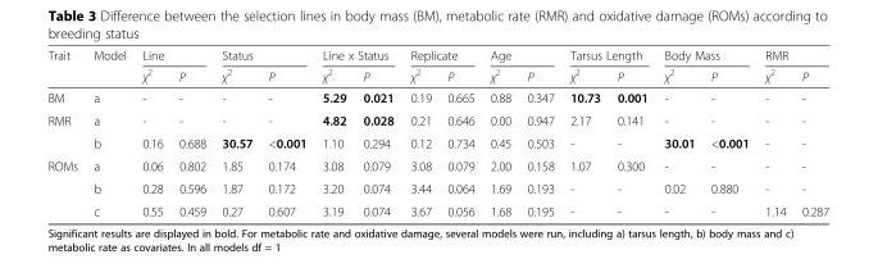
<table><thead><tr><td rowspan="2">Trait</td><td rowspan="2">Model</td><td colspan="2">Line</td><td colspan="2">Status</td><td colspan="2">Line x Status</td><td colspan="2">Replicate</td><td colspan="2">Age</td><td colspan="2">Tarsus Length</td><td colspan="2">Body Mass</td><td colspan="2">RMR</td></tr><tr><td>χ<sup>2</sup></td><td>P</td><td>χ<sup>2</sup></td><td>P</td><td>χ<sup>2</sup></td><td>P</td><td>χ<sup>2</sup></td><td>P</td><td>χ<sup>2</sup></td><td>P</td><td>χ<sup>2</sup></td><td>P</td><td>χ<sup>2</sup></td><td>P</td><td>χ<sup>2</sup></td><td>P</td></tr></thead><tbody><tr><td>BM</td><td>a</td><td>-</td><td>-</td><td>-</td><td>-</td><td>5.29</td><td>0.021</td><td>0.19</td><td>0.665</td><td>0.88</td><td>0.347</td><td>10.73</td><td>0.001</td><td>-</td><td>-</td><td>-</td><td>-</td></tr><tr><td rowspan="2">RMR</td><td>a</td><td>-</td><td>-</td><td>-</td><td>-</td><td>4.82</td><td>0.028</td><td>0.21</td><td>0.646</td><td>0.00</td><td>0.947</td><td>2.17</td><td>0.141</td><td>-</td><td>-</td><td>-</td><td>-</td></tr><tr><td>b</td><td>0.16</td><td>0.688</td><td>30.57</td><td>&lt;0.001</td><td>1.10</td><td>0.294</td><td>0.12</td><td>0.734</td><td>0.45</td><td>0.503</td><td>-</td><td>-</td><td>30.01</td><td>&lt;0.001</td><td>-</td><td>-</td></tr><tr><td rowspan="3">ROMs</td><td>a</td><td>0.06</td><td>0.802</td><td>1.85</td><td>0.174</td><td>3.08</td><td>0.079</td><td>3.08</td><td>0.079</td><td>2.00</td><td>0.158</td><td>1.07</td><td>0.300</td><td>-</td><td>-</td><td>-</td><td>-</td></tr><tr><td>b</td><td>0.28</td><td>0.596</td><td>1.87</td><td>0.172</td><td>3.20</td><td>0.074</td><td>3.44</td><td>0.064</td><td>1.69</td><td>0.193</td><td>-</td><td>-</td><td>0.02</td><td>0.880</td><td>-</td><td>-</td></tr><tr><td>c</td><td>0.55</td><td>0.459</td><td>0.27</td><td>0.607</td><td>3.19</td><td>0.074</td><td>3.67</td><td>0.056</td><td>1.68</td><td>0.195</td><td>-</td><td>-</td><td>-</td><td>-</td><td>1.14</td><td>0.287</td></tr></tbody></table>